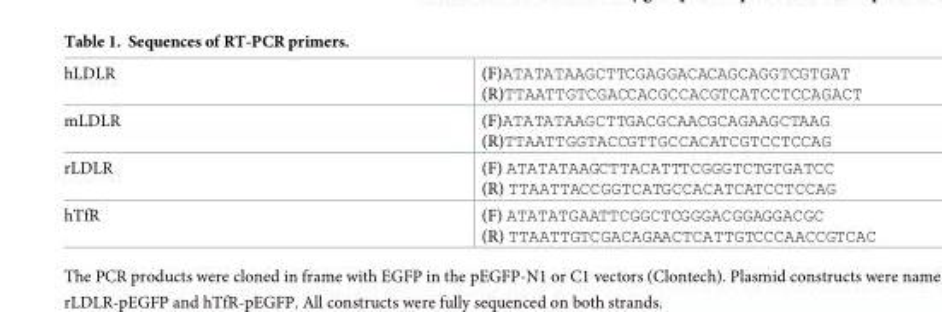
<table><tbody><tr><td>hLDLR</td><td>(F)ATATATAAGCTTCGAGGACACAGCAGGTCGTGAT (R)TTAATTGTCGACCACGCCACGTCATCCTCCAGACT</td></tr><tr><td>mLDLR</td><td>(F)ATATATAAGCTTGACGCAACGCAGAAGCTAAG (R)TTAATTGGTACCGTTGCCACATCGTCCTCCAG</td></tr><tr><td>rLDLR</td><td>(F) ATATATAAGCTTACATTTCGGGTCTGTGATCC (R) TTAATTACCGGTCATGCCACATCATCCTCCAG</td></tr><tr><td>hTfR</td><td>(F) ATATATGAATTCGGCTCGGGACGGAGGACGC (R) TTAATTGTCGACAGAACTCATTGTCCCAACCGTCAC</td></tr></tbody></table>